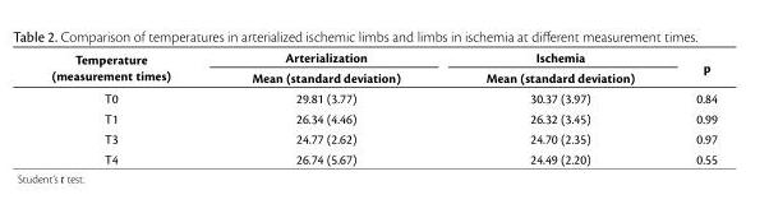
<table><thead><tr><td rowspan="2">Temperature (measurement times)</td><td rowspan="2">Arterialization Mean (standard deviation)</td><td rowspan="2">Ischemia Mean (standard deviation)</td><td rowspan="2">p</td></tr><tr></tr></thead><tbody><tr><td>T0</td><td>29.81 (3.77)</td><td>30.37 (3.97)</td><td>0.84</td></tr><tr><td>T1</td><td>26.34 (4.46)</td><td>26.32 (3.45)</td><td>0.99</td></tr><tr><td>T3</td><td>24.77 (2.62)</td><td>24.70 (2.35)</td><td>0.97</td></tr><tr><td>T4</td><td>26.74 (5.67)</td><td>24.49 (2.20)</td><td>0.55</td></tr></tbody></table>